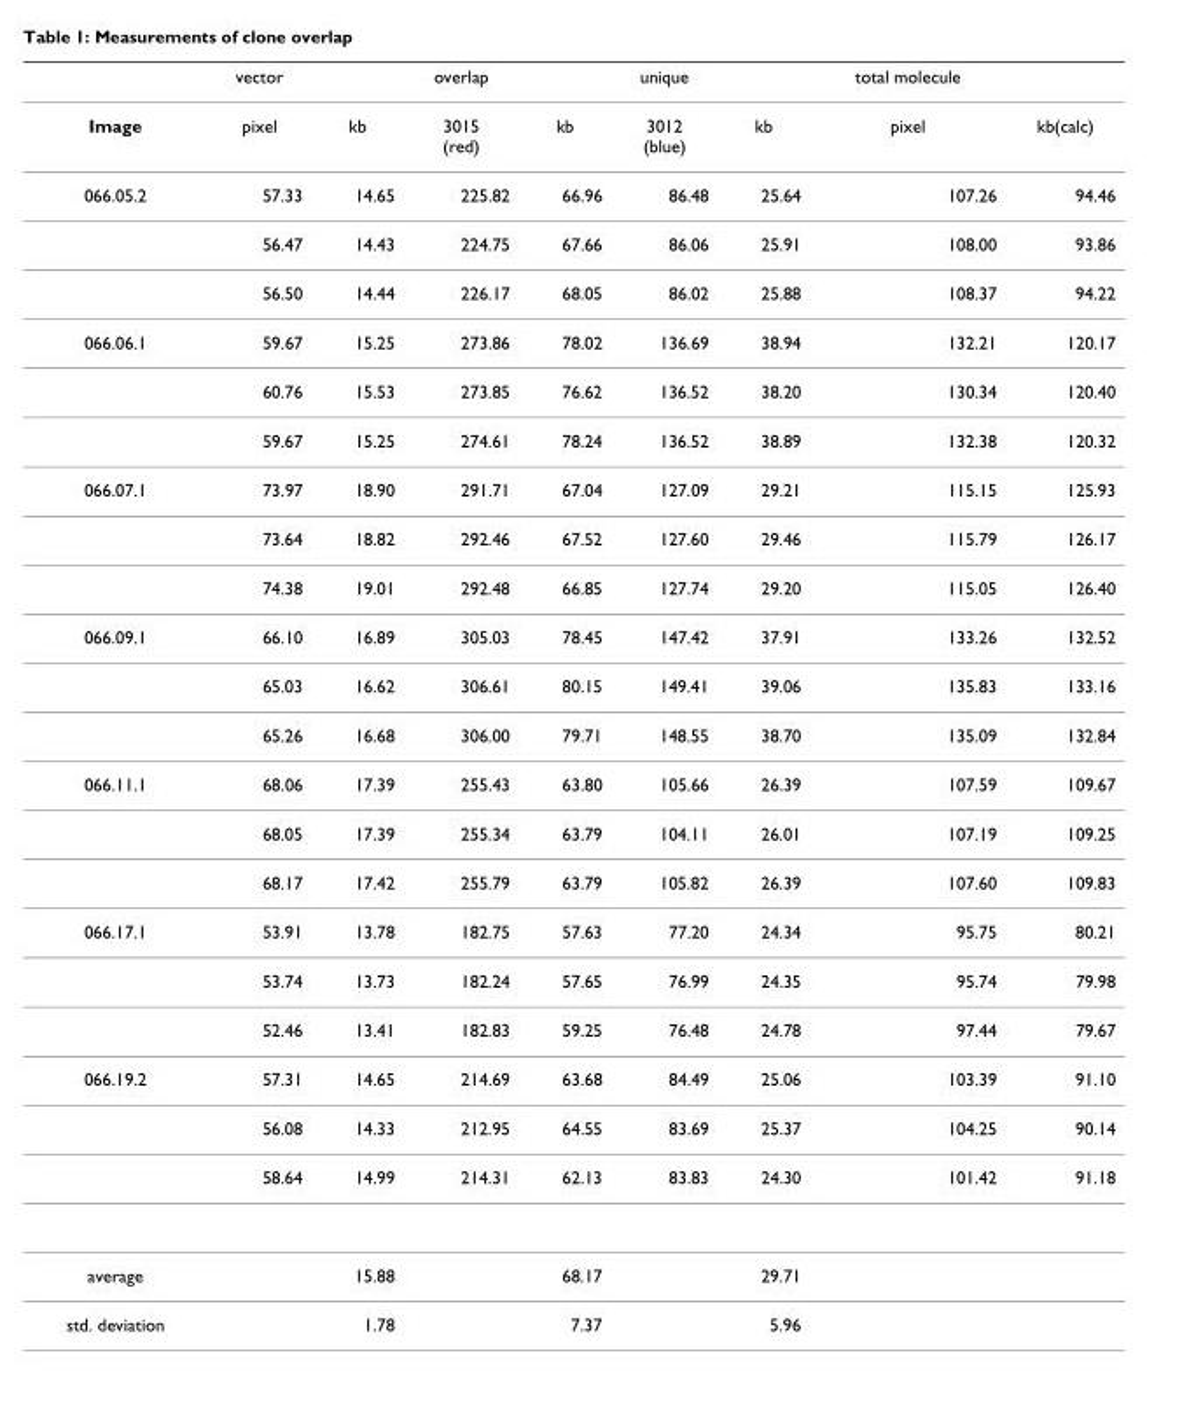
<table><thead><tr><td></td><td>vector</td><td></td><td>overlap</td><td></td><td>unique</td><td></td><td>total molecule</td><td></td></tr></thead><tbody><tr><td>Image</td><td>pixel</td><td>kb</td><td>3015 (red)</td><td>kb</td><td>3012 (blue)</td><td>kb</td><td>pixel</td><td>kb(calc)</td></tr><tr><td rowspan="3">066.05.2</td><td>57.33</td><td>14.65</td><td>225.82</td><td>66.96</td><td>86.48</td><td>25.64</td><td>107.26</td><td>94.46</td></tr><tr><td>56.47</td><td>14.43</td><td>224.75</td><td>67.66</td><td>86.06</td><td>25.91</td><td>108.00</td><td>93.86</td></tr><tr><td>56.50</td><td>14.44</td><td>226.17</td><td>68.05</td><td>86.02</td><td>25.88</td><td>108.37</td><td>94.22</td></tr><tr><td rowspan="3">066.06.1</td><td>59.67</td><td>15.25</td><td>273.86</td><td>78.02</td><td>136.69</td><td>38.94</td><td>132.21</td><td>120.17</td></tr><tr><td>60.76</td><td>15.53</td><td>273.85</td><td>76.62</td><td>136.52</td><td>38.20</td><td>130.34</td><td>120.40</td></tr><tr><td>59.67</td><td>15.25</td><td>274.61</td><td>78.24</td><td>136.52</td><td>38.89</td><td>132.38</td><td>120.32</td></tr><tr><td rowspan="3">066.07.1</td><td>73.97</td><td>18.90</td><td>291.71</td><td>67.04</td><td>127.09</td><td>29.21</td><td>115.15</td><td>125.93</td></tr><tr><td>73.64</td><td>18.82</td><td>292.46</td><td>67.52</td><td>127.60</td><td>29.46</td><td>115.79</td><td>126.17</td></tr><tr><td>74.38</td><td>19.01</td><td>292.48</td><td>66.85</td><td>127.74</td><td>29.20</td><td>115.05</td><td>126.40</td></tr><tr><td rowspan="3">066.09.1</td><td>66.10</td><td>16.89</td><td>305.03</td><td>78.45</td><td>147.42</td><td>37.91</td><td>133.26</td><td>132.52</td></tr><tr><td>65.03</td><td>16.62</td><td>306.61</td><td>80.15</td><td>149.41</td><td>39.06</td><td>135.83</td><td>133.16</td></tr><tr><td>65.26</td><td>16.68</td><td>306.00</td><td>79.71</td><td>148.55</td><td>38.70</td><td>135.09</td><td>132.84</td></tr><tr><td rowspan="3">066.11.1</td><td>68.06</td><td>17.39</td><td>255.43</td><td>63.80</td><td>105.66</td><td>26.39</td><td>107.59</td><td>109.67</td></tr><tr><td>68.05</td><td>17.39</td><td>255.34</td><td>63.79</td><td>104.11</td><td>26.01</td><td>107.19</td><td>109.25</td></tr><tr><td>68.17</td><td>17.42</td><td>255.79</td><td>63.79</td><td>105.82</td><td>26.39</td><td>107.60</td><td>109.83</td></tr><tr><td rowspan="3">066.17.1</td><td>53.91</td><td>13.78</td><td>182.75</td><td>57.63</td><td>77.20</td><td>24.34</td><td>95.75</td><td>80.21</td></tr><tr><td>53.74</td><td>13.73</td><td>182.24</td><td>57.65</td><td>76.99</td><td>24.35</td><td>95.74</td><td>79.98</td></tr><tr><td>52.46</td><td>13.41</td><td>182.83</td><td>59.25</td><td>76.48</td><td>24.78</td><td>97.44</td><td>79.67</td></tr><tr><td rowspan="3">066.19.2</td><td>57.31</td><td>14.65</td><td>214.69</td><td>63.68</td><td>84.49</td><td>25.06</td><td>103.39</td><td>91.10</td></tr><tr><td>56.08</td><td>14.33</td><td>212.95</td><td>64.55</td><td>83.69</td><td>25.37</td><td>104.25</td><td>90.14</td></tr><tr><td>58.64</td><td>14.99</td><td>214.31</td><td>62.13</td><td>83.83</td><td>24.30</td><td>101.42</td><td>91.18</td></tr><tr><td>average</td><td></td><td>15.88</td><td></td><td>68.17</td><td></td><td>29.71</td><td></td><td></td></tr><tr><td>std. deviation</td><td></td><td>1.78</td><td></td><td>7.37</td><td></td><td>5.96</td><td></td><td></td></tr></tbody></table>